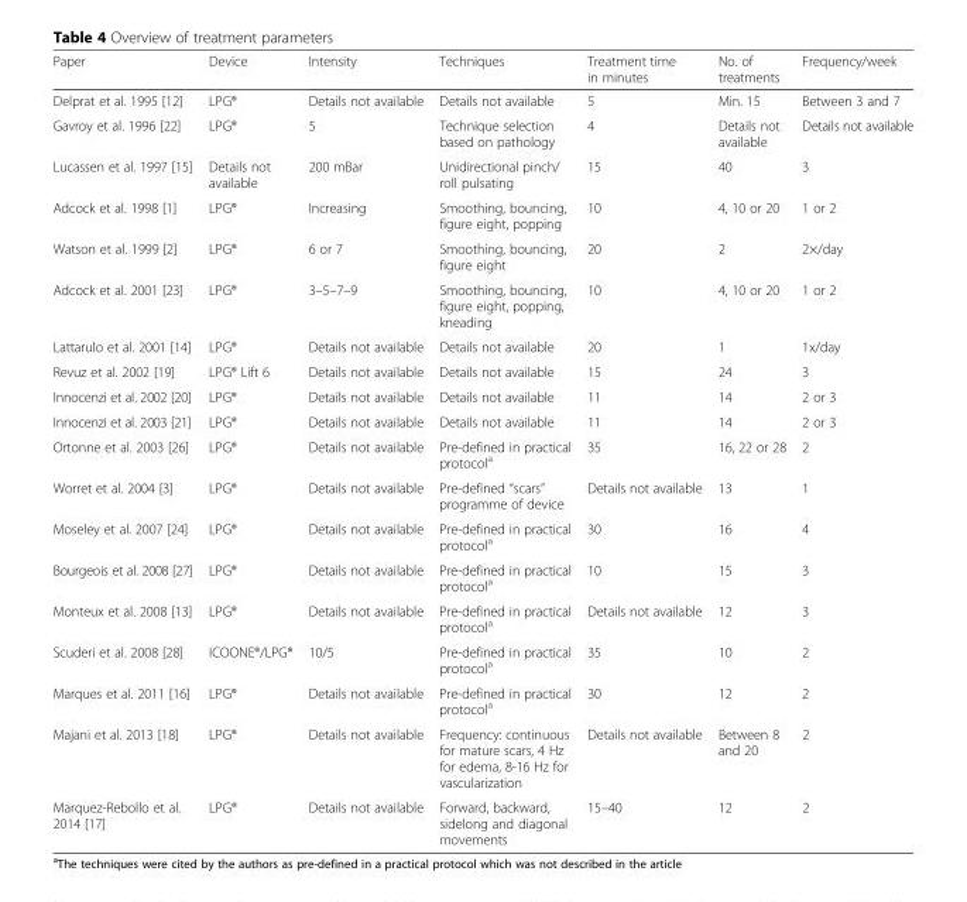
<table><thead><tr><td>Paper</td><td>Device</td><td>Intensity</td><td>Techniques</td><td>Treatment time in minutes</td><td>No. of treatments</td><td>Frequency/week</td></tr></thead><tbody><tr><td>Delprat et al. 1995 [12]</td><td>LPG®</td><td>Details not available</td><td>Details not available</td><td>5</td><td>Min. 15</td><td>Between 3 and 7</td></tr><tr><td>Gavroy et al. 1996 [22]</td><td>LPG®</td><td>5</td><td>Technique selection based on pathology</td><td>4</td><td>Details not available</td><td>Details not available</td></tr><tr><td>Lucassen et al. 1997 [15]</td><td>Details not available</td><td>200 mBar</td><td>Unidirectional pinch/ roll pulsating</td><td>15</td><td>40</td><td>3</td></tr><tr><td>Adcock et al. 1998 [1]</td><td>LPG®</td><td>Increasing</td><td>Smoothing, bouncing, figure eight, popping</td><td>10</td><td>4, 10 or 20</td><td>1 or 2</td></tr><tr><td>Watson et al. 1999 [2]</td><td>LPG®</td><td>6 or 7</td><td>Smoothing, bouncing, figure eight</td><td>20</td><td>2</td><td>2×/day</td></tr><tr><td>Adcock et al. 2001 [23]</td><td>LPG®</td><td>3–5–7–9</td><td>Smoothing, bouncing, figure eight, popping, kneading</td><td>10</td><td>4, 10 or 20</td><td>1 or 2</td></tr><tr><td>Lattarulo et al. 2001 [14]</td><td>LPG®</td><td>Details not available</td><td>Details not available</td><td>20</td><td>1</td><td>1x/day</td></tr><tr><td>Revuz et al. 2002 [19]</td><td>LPG® Lift 6</td><td>Details not available</td><td>Details not available</td><td>15</td><td>24</td><td>3</td></tr><tr><td>Innocenzi et al. 2002 [20]</td><td>LPG®</td><td>Details not available</td><td>Details not available</td><td>11</td><td>14</td><td>2 or 3</td></tr><tr><td>Innocenzi et al. 2003 [21]</td><td>LPG®</td><td>Details not available</td><td>Details not available</td><td>11</td><td>14</td><td>2 or 3</td></tr><tr><td>Ortonne et al. 2003 [26]</td><td>LPG®</td><td>Details not available</td><td>Pre-defined in practical protocol<sup>a</sup></td><td>35</td><td>16, 22 or 28</td><td>2</td></tr><tr><td>Worret et al. 2004 [3]</td><td>LPG®</td><td>Details not available</td><td>Pre-defined “scars” programme of device</td><td>Details not available</td><td>13</td><td>1</td></tr><tr><td>Moseley et al. 2007 [24]</td><td>LPG®</td><td>Details not available</td><td>Pre-defined in practical protocol<sup>a</sup></td><td>30</td><td>16</td><td>4</td></tr><tr><td>Bourgeois et al. 2008 [27]</td><td>LPG®</td><td>Details not available</td><td>Pre-defined in practical protocol<sup>a</sup></td><td>10</td><td>15</td><td>3</td></tr><tr><td>Monteux et al. 2008 [13]</td><td>LPG®</td><td>Details not available</td><td>Pre-defined in practical protocol<sup>a</sup></td><td>Details not available</td><td>12</td><td>3</td></tr><tr><td>Scuderi et al. 2008 [28]</td><td>ICOONE®/LPG®</td><td>10/5</td><td>Pre-defined in practical protocol<sup>a</sup></td><td>35</td><td>10</td><td>2</td></tr><tr><td>Marques et al. 2011 [16]</td><td>LPG®</td><td>Details not available</td><td>Pre-defined in practical protocol<sup>a</sup></td><td>30</td><td>12</td><td>2</td></tr><tr><td>Majani et al. 2013 [18]</td><td>LPG®</td><td>Details not available</td><td>Frequency: continuous for mature scars, 4 Hz for edema, 8-16 Hz for vascularization</td><td>Details not available</td><td>Between 8 and 20</td><td>2</td></tr><tr><td>Marquez-Rebollo et al. 2014 [17]</td><td>LPG®</td><td>Details not available</td><td>Forward, backward, sidelong and diagonal movements</td><td>15–40</td><td>12</td><td>2</td></tr></tbody></table>